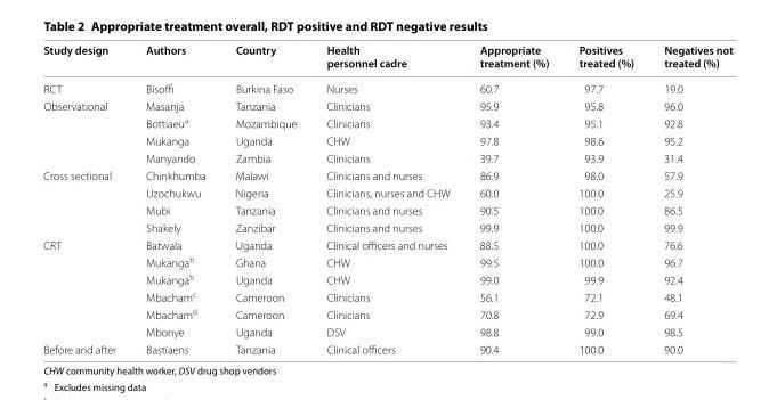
<table><thead><tr><td>Study design</td><td>Authors</td><td>Country</td><td>Health personnel cadre</td><td>Appropriate treatment (%)</td><td>Positives treated (%)</td><td>Negatives not treated (%)</td></tr></thead><tbody><tr><td>RCT</td><td>Bisoffi</td><td>Burkina Faso</td><td>Nurses</td><td>60.7</td><td>97.7</td><td>19.0</td></tr><tr><td rowspan="4">Observational</td><td>Masanja</td><td>Tanzania</td><td>Clinicians</td><td>95.9</td><td>95.8</td><td>96.0</td></tr><tr><td>Bottiaeu<sup>a</sup></td><td>Mozambique</td><td>Clinicians</td><td>93.4</td><td>95.1</td><td>92.8</td></tr><tr><td>Mukanga</td><td>Uganda</td><td>CHW</td><td>97.8</td><td>98.6</td><td>95.2</td></tr><tr><td>Manyando</td><td>Zambia</td><td>Clinicians</td><td>39.7</td><td>93.9</td><td>31.4</td></tr><tr><td rowspan="4">Cross sectional</td><td>Chinkhumba</td><td>Malawi</td><td>Clinicians and nurses</td><td>86.9</td><td>98.0</td><td>57.9</td></tr><tr><td>Uzochukwu</td><td>Nigeria</td><td>Clinicians, nurses and CHW</td><td>60.0</td><td>100.0</td><td>25.9</td></tr><tr><td>Mubi</td><td>Tanzania</td><td>Clinicians and nurses</td><td>90.5</td><td>100.0</td><td>86.5</td></tr><tr><td>Shakely</td><td>Zanzibar</td><td>Clinicians and nurses</td><td>99.9</td><td>100.0</td><td>99.9</td></tr><tr><td rowspan="6">CRT</td><td>Batwala</td><td>Uganda</td><td>Clinical officers and nurses</td><td>88.5</td><td>100.0</td><td>76.6</td></tr><tr><td>Mukanga<sup>b</sup></td><td>Ghana</td><td>CHW</td><td>99.5</td><td>100.0</td><td>96.7</td></tr><tr><td>Mukanga<sup>b</sup></td><td>Uganda</td><td>CHW</td><td>99.0</td><td>99.9</td><td>92.4</td></tr><tr><td>Mbacham<sup>c</sup></td><td>Cameroon</td><td>Clinicians</td><td>56.1</td><td>72.1</td><td>48.1</td></tr><tr><td>Mbacham<sup>d</sup></td><td>Cameroon</td><td>Clinicians</td><td>70.8</td><td>72.9</td><td>69.4</td></tr><tr><td>Mbonye</td><td>Uganda</td><td>DSV</td><td>98.8</td><td>99.0</td><td>98.5</td></tr><tr><td>Before and after</td><td>Bastiaens</td><td>Tanzania</td><td>Clinical officers</td><td>90.4</td><td>100.0</td><td>90.0</td></tr></tbody></table>